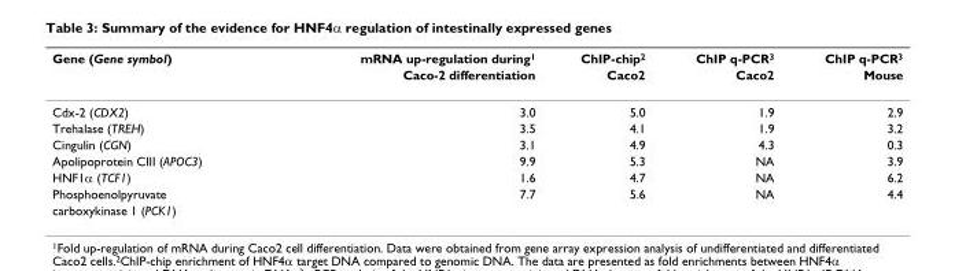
<table><thead><tr><td rowspan="2">Gene (Gene symbol)</td><td rowspan="2">mRNA up-regulation during<sup>1</sup> Caco-2 differentiation</td><td rowspan="2">ChIP-chip<sup>2</sup> Caco2</td><td rowspan="2">ChIP q-PCR<sup>3</sup> Caco2</td><td rowspan="2">ChIP q-PCR<sup>3</sup> Mouse</td></tr><tr></tr></thead><tbody><tr><td>Cdx-2 (CDX2)</td><td>3.0</td><td>5.0</td><td>1.9</td><td>2.9</td></tr><tr><td>Trehalase (TREH)</td><td>3.5</td><td>4.1</td><td>1.9</td><td>3.2</td></tr><tr><td>Cingulin (CGN)</td><td>3.1</td><td>4.9</td><td>4.3</td><td>0.3</td></tr><tr><td>Apolipoprotein CIII (APOC3)</td><td>9.9</td><td>5.3</td><td>NA</td><td>3.9</td></tr><tr><td>HNF1α (TCF1)</td><td>1.6</td><td>4.7</td><td>NA</td><td>6.2</td></tr><tr><td>Phosphoenolpyruvate</td><td>7.7</td><td>5.6</td><td>NA</td><td>4.4</td></tr><tr><td>carboxykinase 1 (PCK1)</td><td></td><td></td><td></td><td></td></tr></tbody></table>